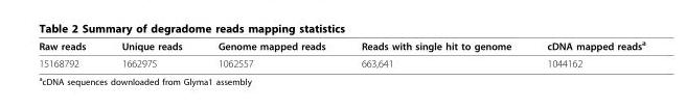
<table><thead><tr><td>Raw reads</td><td>Unique reads</td><td>Genome mapped reads</td><td>Reads with single hit to genome</td><td>cDNA mapped reads<sup>a</sup></td></tr></thead><tbody><tr><td>15168792</td><td>1662975</td><td>1062557</td><td>663,641</td><td>1044162</td></tr></tbody></table>